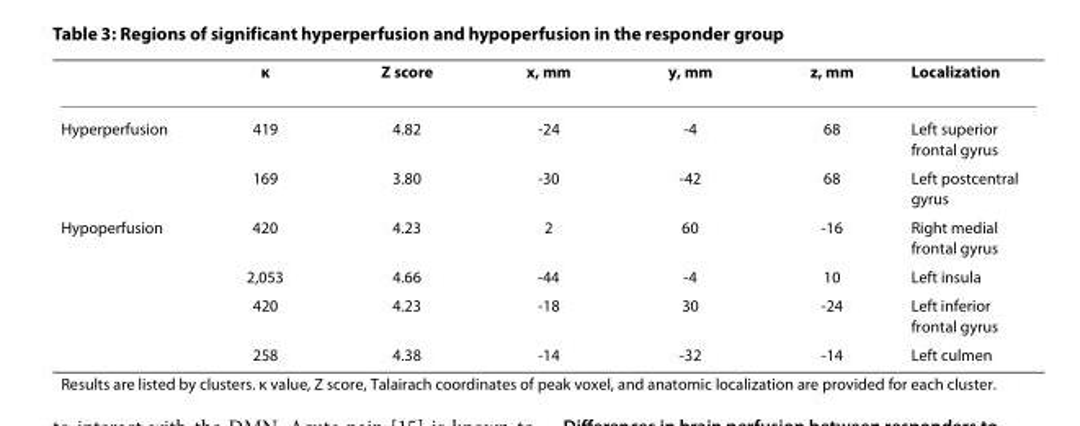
<table><thead><tr><td></td><td>κ</td><td>Z score</td><td>x, mm</td><td>y, mm</td><td>z, mm</td><td>Localization</td></tr></thead><tbody><tr><td rowspan="2">Hyperperfusion</td><td>419</td><td>4.82</td><td>-24</td><td>-4</td><td>68</td><td>Left superior frontal gyrus</td></tr><tr><td>169</td><td>3.80</td><td>-30</td><td>-42</td><td>68</td><td>Left postcentral gyrus</td></tr><tr><td rowspan="4">Hypoperfusion</td><td>420</td><td>4.23</td><td>2</td><td>60</td><td>-16</td><td>Right medial frontal gyrus</td></tr><tr><td>2,053</td><td>4.66</td><td>-44</td><td>-4</td><td>10</td><td>Left insula</td></tr><tr><td>420</td><td>4.23</td><td>-18</td><td>30</td><td>-24</td><td>Left inferior frontal gyrus</td></tr><tr><td>258</td><td>4.38</td><td>-14</td><td>-32</td><td>-14</td><td>Left culmen</td></tr></tbody></table>